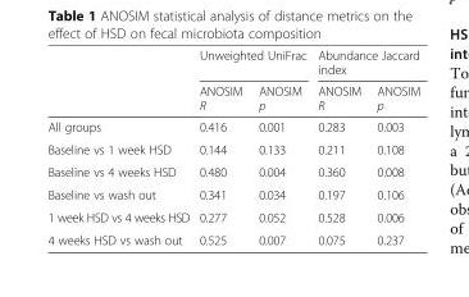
<table><thead><tr><td rowspan="2"></td><td colspan="2">Unweighted UniFrac</td><td colspan="2">Abundance Jaccard index</td></tr><tr><td>ANOSIM R</td><td>ANOSIM p</td><td>ANOSIM R</td><td>ANOSIM p</td></tr></thead><tbody><tr><td>All groups</td><td>0.416</td><td>0.001</td><td>0.283</td><td>0.003</td></tr><tr><td>Baseline vs 1 week HSD</td><td>0.144</td><td>0.133</td><td>0.211</td><td>0.108</td></tr><tr><td>Baseline vs 4 weeks HSD</td><td>0.480</td><td>0.004</td><td>0.360</td><td>0.008</td></tr><tr><td>Baseline vs wash out</td><td>0.341</td><td>0.034</td><td>0.197</td><td>0.106</td></tr><tr><td>1 week HSD vs 4 weeks HSD</td><td>0.277</td><td>0.052</td><td>0.528</td><td>0.006</td></tr><tr><td>4 weeks HSD vs wash out</td><td>0.525</td><td>0.007</td><td>0.075</td><td>0.237</td></tr></tbody></table>